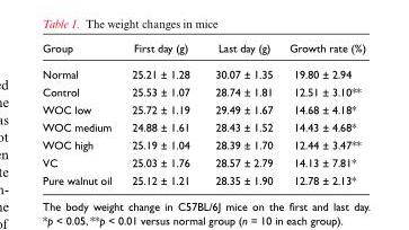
<table><thead><tr><td>Group</td><td>First day (g)</td><td>Last day (g)</td><td>Growth rate (%)</td></tr></thead><tbody><tr><td>Normal</td><td>25.21 ± 1.28</td><td>30.07 ± 1.35</td><td>19.80 ± 2.94</td></tr><tr><td>Control</td><td>25.53 ± 1.07</td><td>28.74 ± 1.81</td><td>12.51 ± 3.10**</td></tr><tr><td>WOC low</td><td>25.72 ± 1.19</td><td>29.49 ± 1.67</td><td>14.68 ± 4.18*</td></tr><tr><td>WOC medium</td><td>24.88 ± 1.61</td><td>28.43 ± 1.52</td><td>14.43 ± 4.68*</td></tr><tr><td>WOC high</td><td>25.19 ± 1.04</td><td>28.39 ± 1.70</td><td>12.44 ± 3.47**</td></tr><tr><td>VC</td><td>25.03 ± 1.76</td><td>28.57 ± 2.79</td><td>14.13 ± 7.81*</td></tr><tr><td>Pure walnut oil</td><td>25.12 ± 1.21</td><td>28.35 ± 1.90</td><td>12.78 ± 2.13*</td></tr></tbody></table>